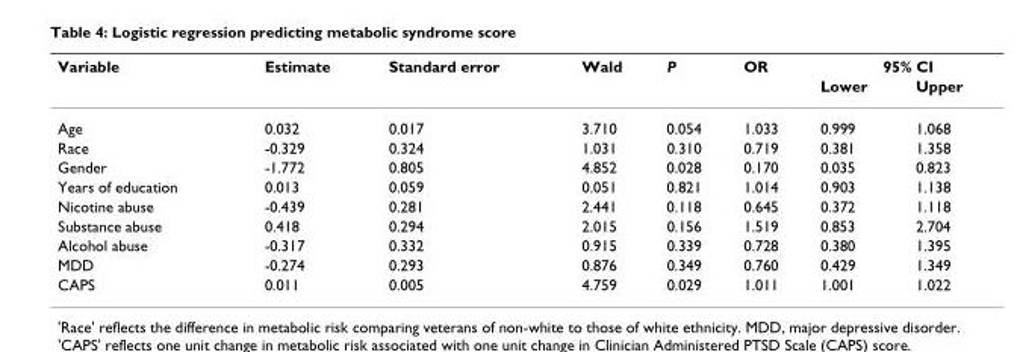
<table><thead><tr><td rowspan="2">Variable</td><td rowspan="2">Estimate</td><td rowspan="2">Standard error</td><td rowspan="2">Wald</td><td rowspan="2">P</td><td rowspan="2">OR</td><td colspan="2">95% CI</td></tr><tr><td>Lower</td><td>Upper</td></tr></thead><tbody><tr><td>Age</td><td>0.032</td><td>0.017</td><td>3.710</td><td>0.054</td><td>1.033</td><td>0.999</td><td>1.068</td></tr><tr><td>Race</td><td>-0.329</td><td>0.324</td><td>1.031</td><td>0.310</td><td>0.719</td><td>0.381</td><td>1.358</td></tr><tr><td>Gender</td><td>-1.772</td><td>0.805</td><td>4.852</td><td>0.028</td><td>0.170</td><td>0.035</td><td>0.823</td></tr><tr><td>Years of education</td><td>0.013</td><td>0.059</td><td>0.051</td><td>0.821</td><td>1.014</td><td>0.903</td><td>1.138</td></tr><tr><td>Nicotine abuse</td><td>-0.439</td><td>0.281</td><td>2.441</td><td>0.118</td><td>0.645</td><td>0.372</td><td>1.118</td></tr><tr><td>Substance abuse</td><td>0.418</td><td>0.294</td><td>2.015</td><td>0.156</td><td>1.519</td><td>0.853</td><td>2.704</td></tr><tr><td>Alcohol abuse</td><td>-0.317</td><td>0.332</td><td>0.915</td><td>0.339</td><td>0.728</td><td>0.380</td><td>1.395</td></tr><tr><td>MDD</td><td>-0.274</td><td>0.293</td><td>0.876</td><td>0.349</td><td>0.760</td><td>0.429</td><td>1.349</td></tr><tr><td>CAPS</td><td>0.011</td><td>0.005</td><td>4.759</td><td>0.029</td><td>1.011</td><td>1.001</td><td>1.022</td></tr></tbody></table>